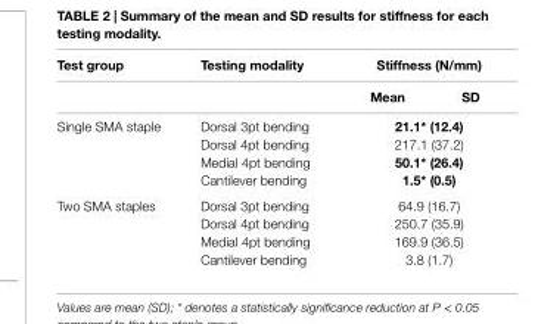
<table><thead><tr><td rowspan="2">Test group</td><td rowspan="2">Testing modality</td><td colspan="2">stiffness (n/mm)</td></tr><tr><td>Mean</td><td>sD</td></tr></thead><tbody><tr><td rowspan="4">Single SMA staple</td><td>Dorsal 3pt bending</td><td colspan="2">21.1* (12.4)</td></tr><tr><td>Dorsal 4pt bending</td><td colspan="2">217.1 (37.2)</td></tr><tr><td>Medial 4pt bending</td><td colspan="2">50.1* (26.4)</td></tr><tr><td>Cantilever bending</td><td colspan="2">1.5* (0.5)</td></tr><tr><td rowspan="4">Two SMA staples</td><td>Dorsal 3pt bending</td><td colspan="2">64.9 (16.7)</td></tr><tr><td>Dorsal 4pt bending</td><td colspan="2">250.7 (35.9)</td></tr><tr><td>Medial 4pt bending</td><td colspan="2">169.9 (36.5)</td></tr><tr><td>Cantilever bending</td><td colspan="2">3.8 (1.7)</td></tr></tbody></table>